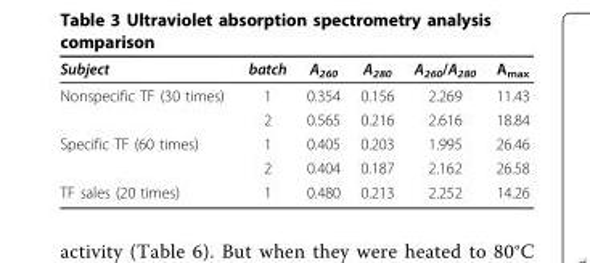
<table><thead><tr><td>Subject</td><td>batch</td><td>A<sub>260</sub></td><td>A<sub>280</sub></td><td>A<sub>260</sub>/A<sub>280</sub></td><td>A<sub>max</sub></td></tr></thead><tbody><tr><td rowspan="2">Nonspecific TF (30 times)</td><td>1</td><td>0.354</td><td>0.156</td><td>2.269</td><td>11.43</td></tr><tr><td>2</td><td>0.565</td><td>0.216</td><td>2.616</td><td>18.84</td></tr><tr><td rowspan="2">Specific TF (60 times)</td><td>1</td><td>0.405</td><td>0.203</td><td>1.995</td><td>26.46</td></tr><tr><td>2</td><td>0.404</td><td>0.187</td><td>2.162</td><td>26.58</td></tr><tr><td>TF sales (20 times)</td><td>1</td><td>0.480</td><td>0.213</td><td>2.252</td><td>14.26</td></tr></tbody></table>